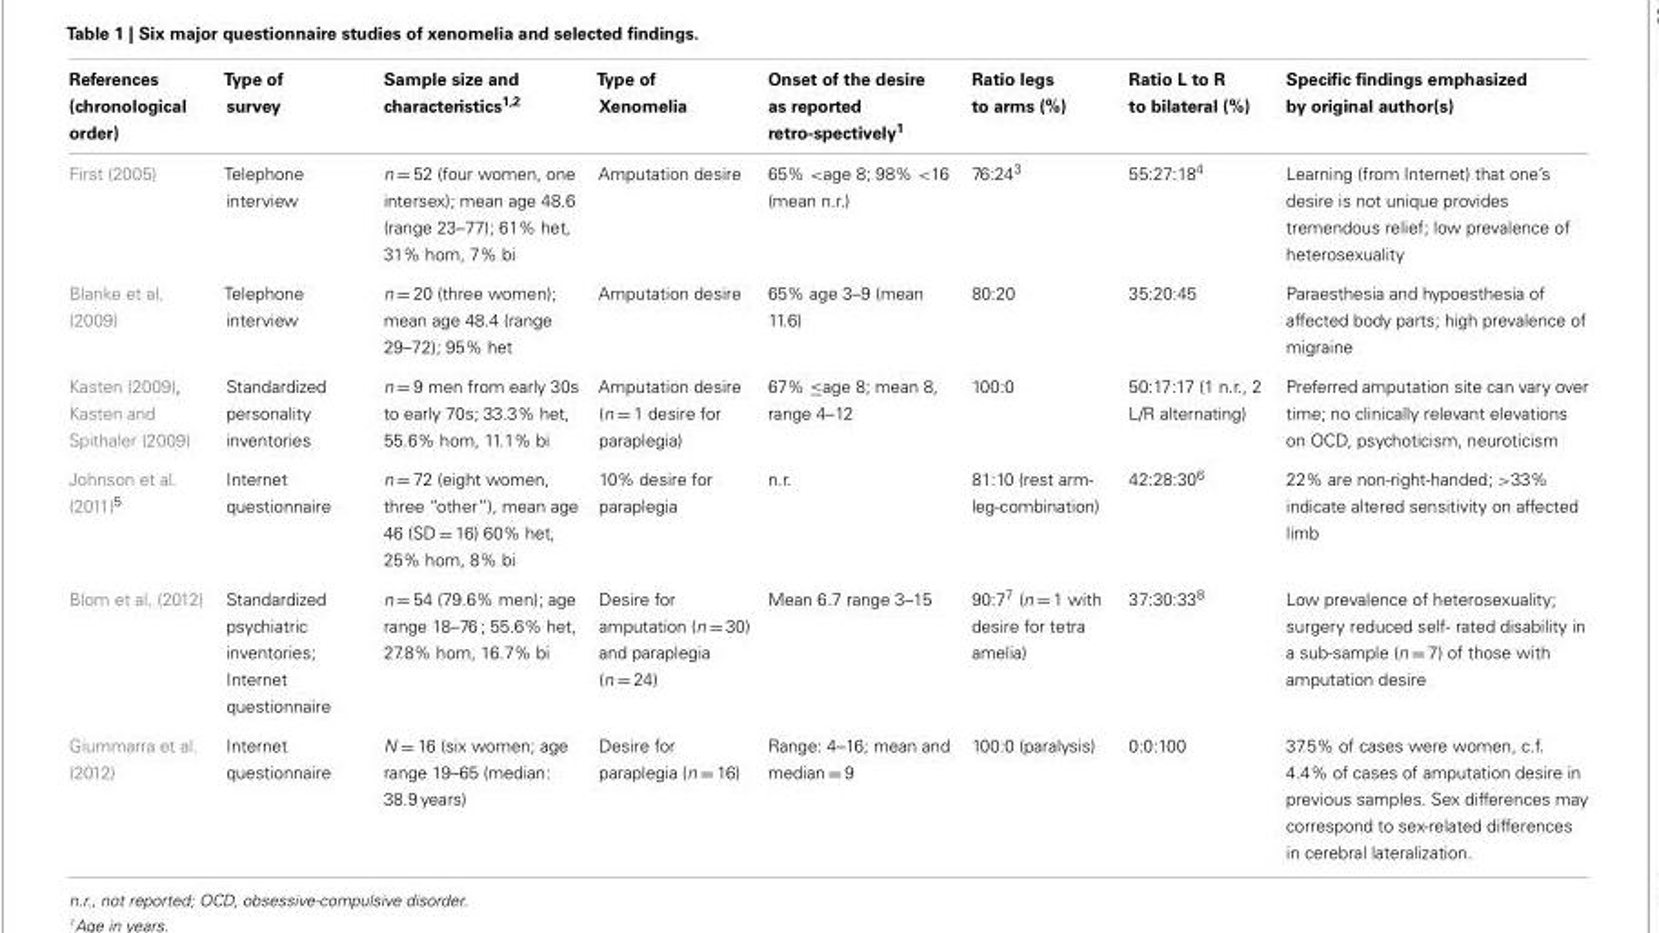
<table><thead><tr><td>References (chronological order)</td><td>Type of survey</td><td>Sample size and characteristics<sup>1,2</sup></td><td>Type of Xenomelia</td><td>Onset of the desire as reported retro-spectively<sup>1</sup></td><td>Ratio legs to arms (%)</td><td>Ratio L to R to bilateral (%)</td><td>Specific findings emphasized by original author(s)</td></tr></thead><tbody><tr><td>First (2005)</td><td>Telephone interview</td><td>n = 52 (four women, one intersex); mean age 48.6 (range 23–77); 61% het, 31% hom, 7% bi</td><td>Amputation desire</td><td>65% &lt;age 8; 98% &lt;16 (mean n.r.)</td><td>76:24<sup>3</sup></td><td>55:27:18<sup>4</sup></td><td>Learning (from Internet) that one’s desire is not unique provides tremendous relief; low prevalence of heterosexuality</td></tr><tr><td>Blanke et al. (2009)</td><td>Telephone interview</td><td>n = 20 (three women); mean age 48.4 (range 29–72); 95% het</td><td>Amputation desire</td><td>65% age 3–9 (mean 11.6)</td><td>80:20</td><td>35:20:45</td><td>Paraesthesia and hypoesthesia of affected body parts; high prevalence of migraine</td></tr><tr><td>Kasten (2009), Kasten and Spithaler (2009)</td><td>Standardized personality inventories</td><td>n = 9 men from early 30s to early 70s; 33.3% het, 55.6% hom, 11.1% bi</td><td>Amputation desire (n = 1 desire for paraplegia)</td><td>67% ≤age 8; mean 8, range 4–12</td><td>100:0</td><td>50:17:17 (1 n.r., 2 L/R alternating)</td><td>Preferred amputation site can vary over time; no clinically relevant elevations on OCD, psychoticism, neuroticism</td></tr><tr><td>Johnson et al. (2011)<sup>5</sup></td><td>Internet questionnaire</td><td>n = 72 (eight women, three “other”), mean age 46 (SD = 16) 60% het, 25% hom, 8% bi</td><td>10% desire for paraplegia</td><td>n.r.</td><td>81:10 (rest arm- leg-combination)</td><td>42:28:30<sup>6</sup></td><td>22% are non-right-handed; &gt;33% indicate altered sensitivity on affected limb</td></tr><tr><td>Blom et al. (2012)</td><td>Standardized psychiatric inventories; Internet questionnaire</td><td>n = 54 (79.6% men); age range 18–76 ; 55.6% het, 27.8% hom, 16.7% bi</td><td>Desire for amputation (n = 30) and paraplegia (n = 24)</td><td>Mean 6.7 range 3–15</td><td>90:7<sup>7</sup> (n = 1 with desire for tetra amelia)</td><td>37:30:33<sup>8</sup></td><td>Low prevalence of heterosexuality; surgery reduced self- rated disability in a sub-sample (n = 7) of those with amputation desire</td></tr><tr><td>Giummarra et al. (2012)</td><td>Internet questionnaire</td><td>N = 16 (six women; age range 19–65 (median: 38.9 years)</td><td>Desire for paraplegia (n = 16)</td><td>Range: 4–16; mean and median = 9</td><td>100:0 (paralysis)</td><td>0:0:100</td><td>37.5% of cases were women, c.f. 4.4% of cases of amputation desire in previous samples. Sex differences may correspond to sex-related differences in cerebral lateralization.</td></tr></tbody></table>